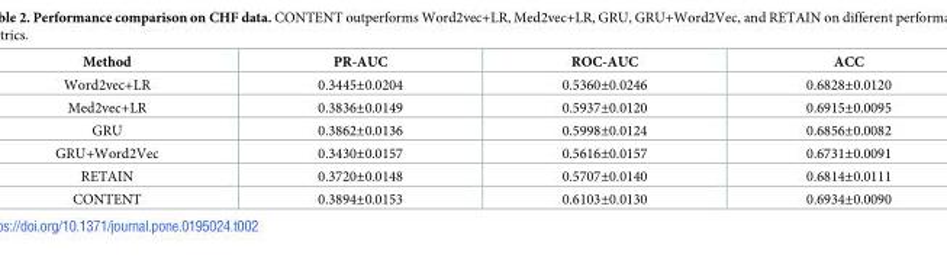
<table><thead><tr><td>Method</td><td>PR-AUC</td><td>ROC-AUC</td><td>ACC</td></tr></thead><tbody><tr><td>Word2vec+LR</td><td>0.3445±0.0204</td><td>0.5360±0.0246</td><td>0.6828±0.0120</td></tr><tr><td>Med2vec+LR</td><td>0.3836±0.0149</td><td>0.5937±0.0120</td><td>0.6915±0.0095</td></tr><tr><td>GRU</td><td>0.3862±0.0136</td><td>0.5998±0.0124</td><td>0.6856±0.0082</td></tr><tr><td>GRU+Word2Vec</td><td>0.3430±0.0157</td><td>0.5616±0.0157</td><td>0.6731±0.0091</td></tr><tr><td>RETAIN</td><td>0.3720±0.0148</td><td>0.5707±0.0140</td><td>0.6814±0.0111</td></tr><tr><td>CONTENT</td><td>0.3894±0.0153</td><td>0.6103±0.0130</td><td>0.6934±0.0090</td></tr></tbody></table>